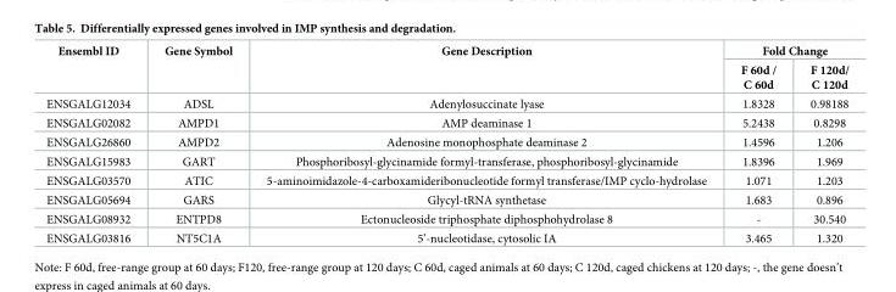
<table><thead><tr><td rowspan="2">Ensembl ID</td><td rowspan="2">Gene Symbol</td><td rowspan="2">Gene Description</td><td colspan="2">Fold Change</td></tr><tr><td>F 60d / C 60d</td><td>F 120d/ C 120d</td></tr></thead><tbody><tr><td>ENSGALG12034</td><td>ADSL</td><td>Adenylosuccinate lyase</td><td>1.8328</td><td>0.98188</td></tr><tr><td>ENSGALG02082</td><td>AMPD1</td><td>AMP deaminase 1</td><td>5.2438</td><td>0.8298</td></tr><tr><td>ENSGALG26860</td><td>AMPD2</td><td>Adenosine monophosphate deaminase 2</td><td>1.4596</td><td>1.206</td></tr><tr><td>ENSGALG15983</td><td>GART</td><td>Phosphoribosyl-glycinamide formyl-transferase, phosphoribosyl-glycinamide</td><td>1.8396</td><td>1.969</td></tr><tr><td>ENSGALG03570</td><td>ATIC</td><td>5-aminoimidazole-4-carboxamideribonucleotide formyl transferase/IMP cyclo-hydrolase</td><td>1.071</td><td>1.203</td></tr><tr><td>ENSGALG05694</td><td>GARS</td><td>Glycyl-tRNA synthetase</td><td>1.683</td><td>0.896</td></tr><tr><td>ENSGALG08932</td><td>ENTPD8</td><td>Ectonucleoside triphosphate diphosphohydrolase 8</td><td>-</td><td>30.540</td></tr><tr><td>ENSGALG03816</td><td>NT5C1A</td><td>5’-nucleotidase, cytosolic IA</td><td>3.465</td><td>1.320</td></tr></tbody></table>